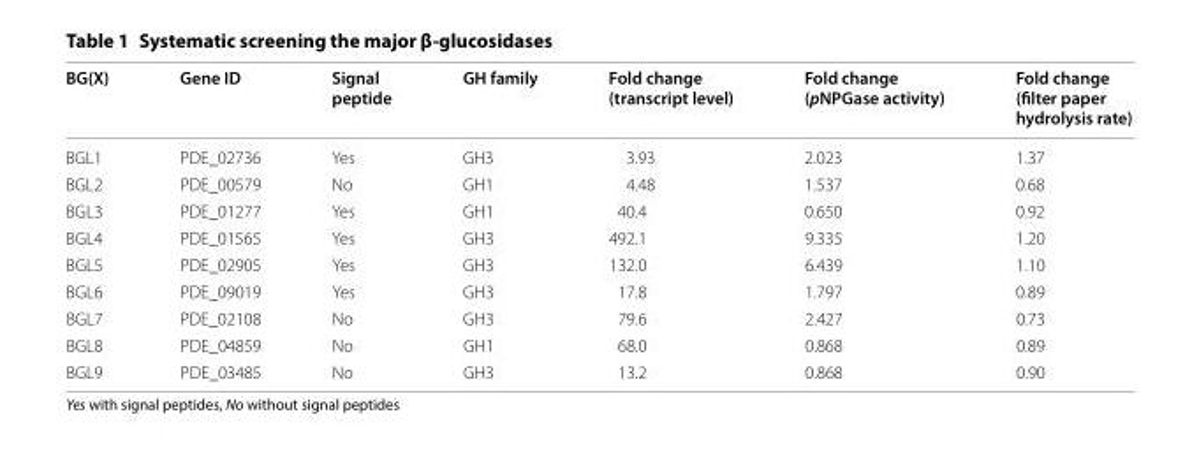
<table><thead><tr><td>BG(X)</td><td>Gene ID</td><td>Signal peptide</td><td>GH family</td><td>Fold change (transcript level)</td><td>Fold change (pNPGase activity)</td><td>Fold change (filter paper hydrolysis rate)</td></tr></thead><tbody><tr><td>BGL1</td><td>PDE_02736</td><td>Yes</td><td>GH3</td><td>3.93</td><td>2.023</td><td>1.37</td></tr><tr><td>BGL2</td><td>PDE_00579</td><td>No</td><td>GH1</td><td>4.48</td><td>1.537</td><td>0.68</td></tr><tr><td>BGL3</td><td>PDE_01277</td><td>Yes</td><td>GH1</td><td>40.4</td><td>0.650</td><td>0.92</td></tr><tr><td>BGL4</td><td>PDE_01565</td><td>Yes</td><td>GH3</td><td>492.1</td><td>9.335</td><td>1.20</td></tr><tr><td>BGL5</td><td>PDE_02905</td><td>Yes</td><td>GH3</td><td>132.0</td><td>6.439</td><td>1.10</td></tr><tr><td>BGL6</td><td>PDE_09019</td><td>Yes</td><td>GH3</td><td>17.8</td><td>1.797</td><td>0.89</td></tr><tr><td>BGL7</td><td>PDE_02108</td><td>No</td><td>GH3</td><td>79.6</td><td>2.427</td><td>0.73</td></tr><tr><td>BGL8</td><td>PDE_04859</td><td>No</td><td>GH1</td><td>68.0</td><td>0.868</td><td>0.89</td></tr><tr><td>BGL9</td><td>PDE_03485</td><td>No</td><td>GH3</td><td>13.2</td><td>0.868</td><td>0.90</td></tr></tbody></table>